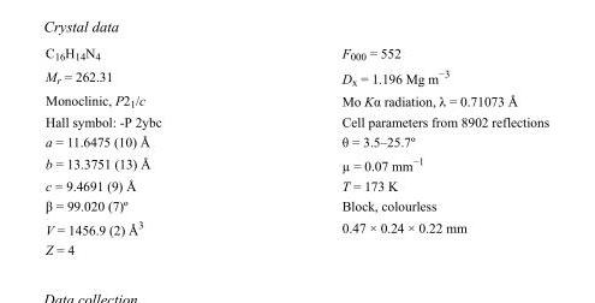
<table><tbody><tr><td>C<sub>16</sub>H<sub>14</sub>N<sub>4</sub></td><td>F000 = 552</td></tr><tr><td>M<sub>r</sub> = 262.31</td><td>D<sub>x</sub> = 1.196 Mg m<sup>−3</sup></td></tr><tr><td>Monoclinic, P2<sub>1</sub>/c</td><td>Mo Kα radiation, λ = 0.71073 Å</td></tr><tr><td>Hall symbol: -P 2ybc</td><td>Cell parameters from 8902 reflections</td></tr><tr><td>a = 11.6475 (10) Å</td><td>θ = 3.5–25.7º</td></tr><tr><td>b = 13.3751 (13) Å</td><td>µ = 0.07 mm<sup>−1</sup></td></tr><tr><td>c = 9.4691 (9) Å</td><td>T = 173 K</td></tr><tr><td>β = 99.020 (7)º</td><td>Block, colourless</td></tr><tr><td>V = 1456.9 (2) Å<sup>3</sup></td><td>0.47 × 0.24 × 0.22 mm</td></tr><tr><td>Z = 4</td><td></td></tr></tbody></table>